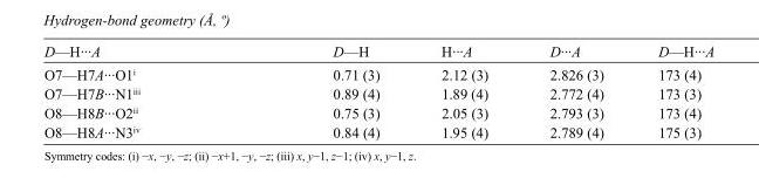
<table><tbody><tr><td>D—H···A</td><td>D—H</td><td>H···A</td><td>D···A</td><td>D—H···A</td></tr><tr><td>O7—H7A···O1<sup>i</sup></td><td>0.71 (3)</td><td>2.12 (3)</td><td>2.826 (3)</td><td>173 (4)</td></tr><tr><td>O7—H7B···N1<sup>iii</sup></td><td>0.89 (4)</td><td>1.89 (4)</td><td>2.772 (4)</td><td>173 (3)</td></tr><tr><td>O8—H8B···O2<sup>ii</sup></td><td>0.75 (3)</td><td>2.05 (3)</td><td>2.793 (3)</td><td>173 (4)</td></tr><tr><td>O8—H8A···N3<sup>iv</sup></td><td>0.84 (4)</td><td>1.95 (4)</td><td>2.789 (4)</td><td>175 (3)</td></tr></tbody></table>